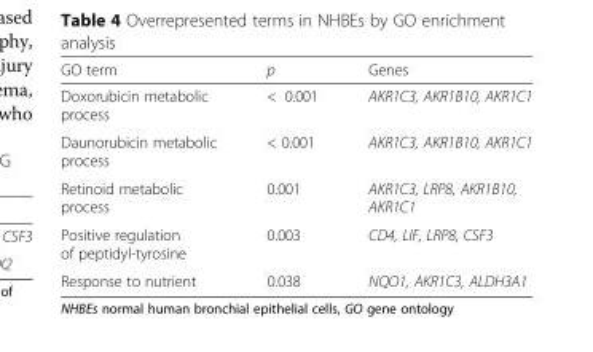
<table><thead><tr><td>GO term</td><td>p</td><td>Genes</td></tr></thead><tbody><tr><td>Doxorubicin metabolic process</td><td>&lt; 0.001</td><td>AKR1C3, AKR1B10, AKR1C1</td></tr><tr><td>Daunorubicin metabolic process</td><td>&lt; 0.001</td><td>AKR1C3, AKR1B10, AKR1C1</td></tr><tr><td>Retinoid metabolic process</td><td>0.001</td><td>AKR1C3, LRP8, AKR1B10, AKR1C1</td></tr><tr><td>Positive regulation of peptidyl-tyrosine</td><td>0.003</td><td>CD4, LIF, LRP8, CSF3</td></tr><tr><td>Response to nutrient</td><td>0.038</td><td>NQO1, AKR1C3, ALDH3A1</td></tr></tbody></table>